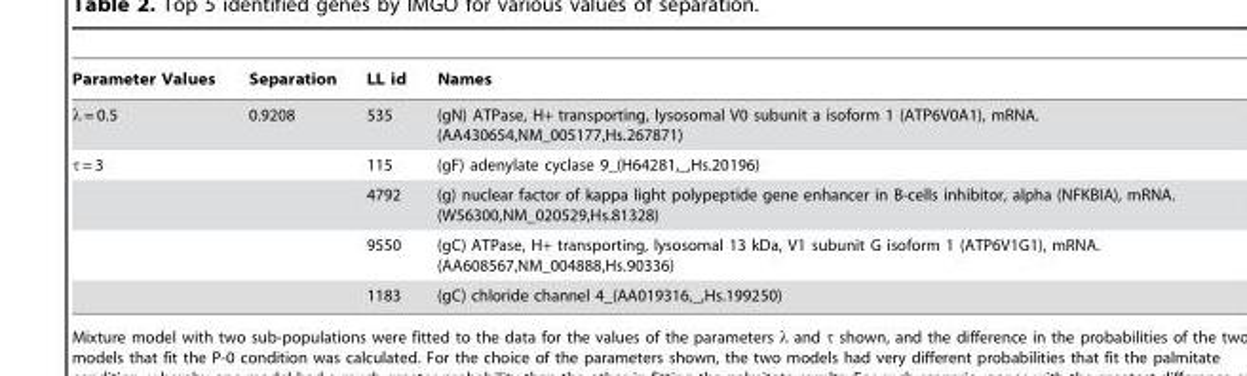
<table><thead><tr><td>Parameter Values</td><td>Separation</td><td>LL id</td><td>Names</td></tr></thead><tbody><tr><td>λ = 0.5</td><td>0.9208</td><td>535</td><td>(gN) ATPase, H+ transporting, lysosomal V0 subunit a isoform 1 (ATP6V0A1), mRNA. (AA430654,NM_005177,Hs.267871)</td></tr><tr><td rowspan="4">τ = 3</td><td></td><td>115</td><td>(gF) adenylate cyclase 9_(H64281,_,Hs.20196)</td></tr><tr><td></td><td>4792</td><td>(g) nuclear factor of kappa light polypeptide gene enhancer in B-cells inhibitor, alpha (NFKBIA), mRNA. (W56300,NM_020529,Hs.81328)</td></tr><tr><td></td><td>9550</td><td>(gC) ATPase, H+ transporting, lysosomal 13 kDa, V1 subunit G isoform 1 (ATP6V1G1), mRNA. (AA608567,NM_004888,Hs.90336)</td></tr><tr><td></td><td>1183</td><td>(gC) chloride channel 4_(AA019316,_,Hs.199250)</td></tr></tbody></table>